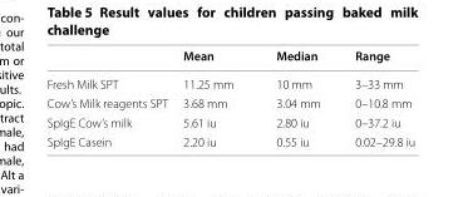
<table><thead><tr><td></td><td>Mean</td><td>Median</td><td>Range</td></tr></thead><tbody><tr><td>Fresh Milk SPT</td><td>11.25 mm</td><td>10 mm</td><td>3–33 mm</td></tr><tr><td>Cow’s Milk reagents SPT</td><td>3.68 mm</td><td>3.04 mm</td><td>0–10.8 mm</td></tr><tr><td>SpIgE Cow’s milk</td><td>5.61 iu</td><td>2.80 iu</td><td>0–37.2 iu</td></tr><tr><td>SpIgE Casein</td><td>2.20 iu</td><td>0.55 iu</td><td>0.02–29.8 iu</td></tr></tbody></table>